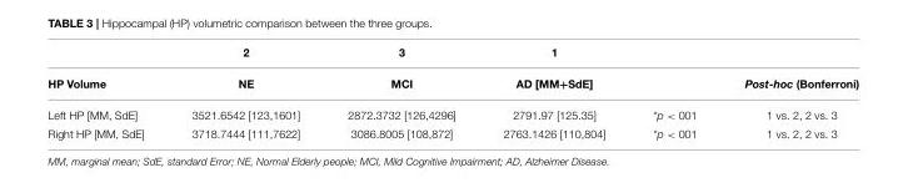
<table><thead><tr><td rowspan="2">HP Volume</td><td rowspan="2">2 NE</td><td rowspan="2">3 MCI</td><td rowspan="2">1 AD [MM+SdE]</td><td rowspan="2"></td><td rowspan="2">Post-hoc (Bonferroni)</td></tr><tr></tr></thead><tbody><tr><td>Left HP [MM, SdE]</td><td>3521.6542 [123,1601]</td><td>2872.3732 [126,4296]</td><td>2791.97 [125.35]</td><td>*p &lt; 001</td><td>1 vs. 2, 2 vs. 3</td></tr><tr><td>Right HP [MM, SdE]</td><td>3718.7444 [111,7622]</td><td>3086.8005 [108,872]</td><td>2763.1426 [110,804]</td><td>*p &lt; 001</td><td>1 vs. 2, 2 vs. 3</td></tr></tbody></table>